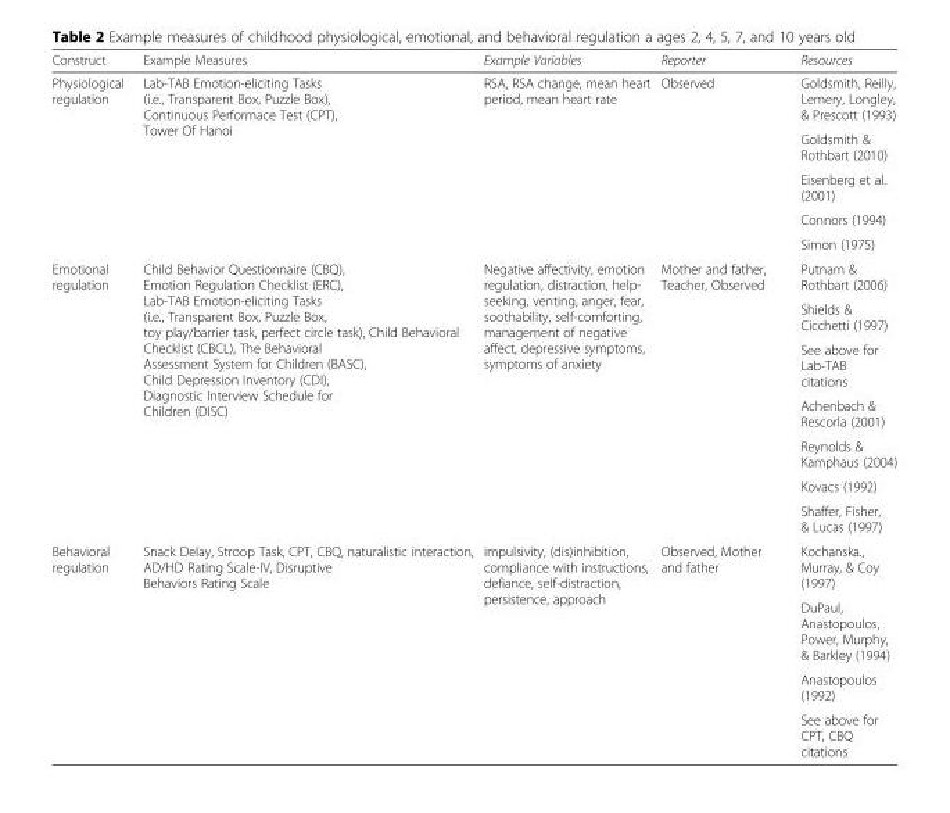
<table><thead><tr><td>Construct</td><td>Example Measures</td><td>Example Variables</td><td>Reporter</td><td>Resources</td></tr></thead><tbody><tr><td rowspan="5">Physiological regulation</td><td rowspan="5">Lab-TAB Emotion-eliciting Tasks (i.e., Transparent Box, Puzzle Box), Continuous Performace Test (CPT), Tower Of Hanoi</td><td rowspan="5">RSA, RSA change, mean heart period, mean heart rate</td><td rowspan="5">Observed</td><td>Goldsmith, Reilly, Lemery, Longley, &amp; Prescott (1993)</td></tr><tr><td>Goldsmith &amp; Rothbart (2010)</td></tr><tr><td>Eisenberg et al. (2001)</td></tr><tr><td>Connors (1994)</td></tr><tr><td>Simon (1975)</td></tr><tr><td rowspan="7">Emotional regulation</td><td rowspan="7">Child Behavior Questionnaire (CBQ), Emotion Regulation Checklist (ERC), Lab-TAB Emotion-eliciting Tasks (i.e., Transparent Box, Puzzle Box, toy play/barrier task, perfect circle task), Child Behavioral Checklist (CBCL), The Behavioral Assessment System for Children (BASC), Child Depression Inventory (CDI), Diagnostic Interview Schedule for Children (DISC)</td><td rowspan="7">Negative affectivity, emotion regulation, distraction, help- seeking, venting, anger, fear, soothability, self-comforting, management of negative affect, depressive symptoms, symptoms of anxiety</td><td rowspan="7">Mother and father, Teacher, Observed</td><td>Putnam &amp; Rothbart (2006)</td></tr><tr><td>Shields &amp; Cicchetti (1997)</td></tr><tr><td>See above for Lab-TAB citations</td></tr><tr><td>Achenbach &amp; Rescorla (2001)</td></tr><tr><td>Reynolds &amp; Kamphaus (2004)</td></tr><tr><td>Kovacs (1992)</td></tr><tr><td>Shaffer, Fisher, &amp; Lucas (1997)</td></tr><tr><td rowspan="4">Behavioral regulation</td><td rowspan="4">Snack Delay, Stroop Task, CPT, CBQ, naturalistic interaction, AD/HD Rating Scale-IV, Disruptive Behaviors Rating Scale</td><td rowspan="4">impulsivity, (dis)inhibition, compliance with instructions, defiance, self-distraction, persistence, approach</td><td rowspan="4">Observed, Mother and father</td><td>Kochanska., Murray, &amp; Coy (1997)</td></tr><tr><td>DuPaul, Anastopoulos, Power, Murphy, &amp; Barkley (1994)</td></tr><tr><td>Anastopoulos (1992)</td></tr><tr><td>See above for CPT, CBQ citations</td></tr></tbody></table>